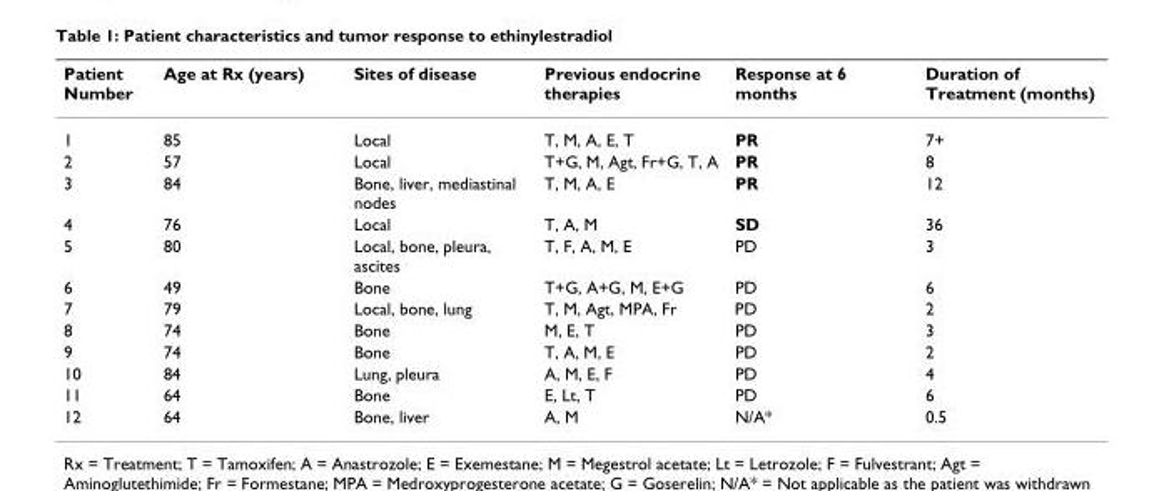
<table><thead><tr><td>Patient Number</td><td>Age at Rx (years)</td><td>Sites of disease</td><td>Previous endocrine therapies</td><td>Response at 6 months</td><td>Duration of Treatment (months)</td></tr></thead><tbody><tr><td>1</td><td>85</td><td>Local</td><td>T, M, A, E, T</td><td>PR</td><td>7+</td></tr><tr><td>2</td><td>57</td><td>Local</td><td>T+G, M, Agt, Fr+G, T, A</td><td>PR</td><td>8</td></tr><tr><td>3</td><td>84</td><td>Bone, liver, mediastinal nodes</td><td>T, M, A, E</td><td>PR</td><td>12</td></tr><tr><td>4</td><td>76</td><td>Local</td><td>T, A, M</td><td>SD</td><td>36</td></tr><tr><td>5</td><td>80</td><td>Local, bone, pleura, ascites</td><td>T, F, A, M, E</td><td>PD</td><td>3</td></tr><tr><td>6</td><td>49</td><td>Bone</td><td>T+G, A+G, M, E+G</td><td>PD</td><td>6</td></tr><tr><td>7</td><td>79</td><td>Local, bone, lung</td><td>T, M, Agt, MPA, Fr</td><td>PD</td><td>2</td></tr><tr><td>8</td><td>74</td><td>Bone</td><td>M, E, T</td><td>PD</td><td>3</td></tr><tr><td>9</td><td>74</td><td>Bone</td><td>T, A, M, E</td><td>PD</td><td>2</td></tr><tr><td>10</td><td>84</td><td>Lung, pleura</td><td>A, M, E, F</td><td>PD</td><td>4</td></tr><tr><td>11</td><td>64</td><td>Bone</td><td>E, Lt, T</td><td>PD</td><td>6</td></tr><tr><td>12</td><td>64</td><td>Bone, liver</td><td>A, M</td><td>N/A*</td><td>0.5</td></tr></tbody></table>